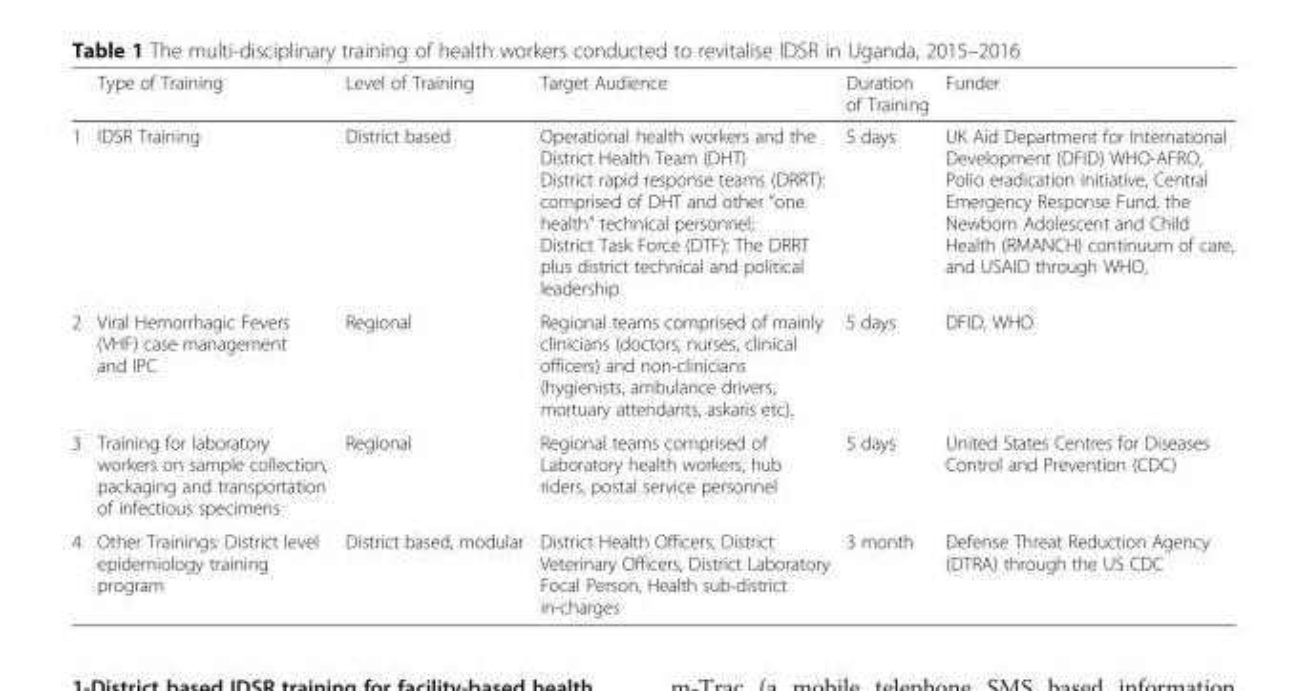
<table><thead><tr><td></td><td>Type of Training</td><td>Level of Training</td><td>Target Audience</td><td>Duration of Training</td><td>Funder</td></tr></thead><tbody><tr><td>1</td><td>IDSR Training</td><td>District based</td><td>Operational health workers and the District Health Team (DHT) District rapid response teams (DRRT): comprised of DHT and other “one health” technical personnel; District Task Force (DTF): The DRRT plus district technical and political leadership</td><td>5 days</td><td>UK Aid Department for International Development (DFID) WHO-AFRO, Polio eradication initiative, Central Emergency Response Fund, the Newborn Adolescent and Child Health (RMANCH) continuum of care, and USAID through WHO,</td></tr><tr><td>2</td><td>Viral Hemorrhagic Fevers (VHF) case management and IPC</td><td>Regional</td><td>Regional teams comprised of mainly clinicians (doctors, nurses, clinical officers) and non-clinicians (hygienists, ambulance drivers, mortuary attendants, askaris etc).</td><td>5 days</td><td>DFID, WHO</td></tr><tr><td>3</td><td>Training for laboratory workers on sample collection, packaging and transportation of infectious specimens</td><td>Regional</td><td>Regional teams comprised of Laboratory health workers, hub riders, postal service personnel</td><td>5 days</td><td>United States Centres for Diseases Control and Prevention (CDC)</td></tr><tr><td>4</td><td>Other Trainings: District level epidemiology training program</td><td>District based, modular</td><td>District Health Officers, District Veterinary Officers, District Laboratory Focal Person, Health sub-district in-charges</td><td>3 month</td><td>Defense Threat Reduction Agency (DTRA) through the US CDC</td></tr></tbody></table>